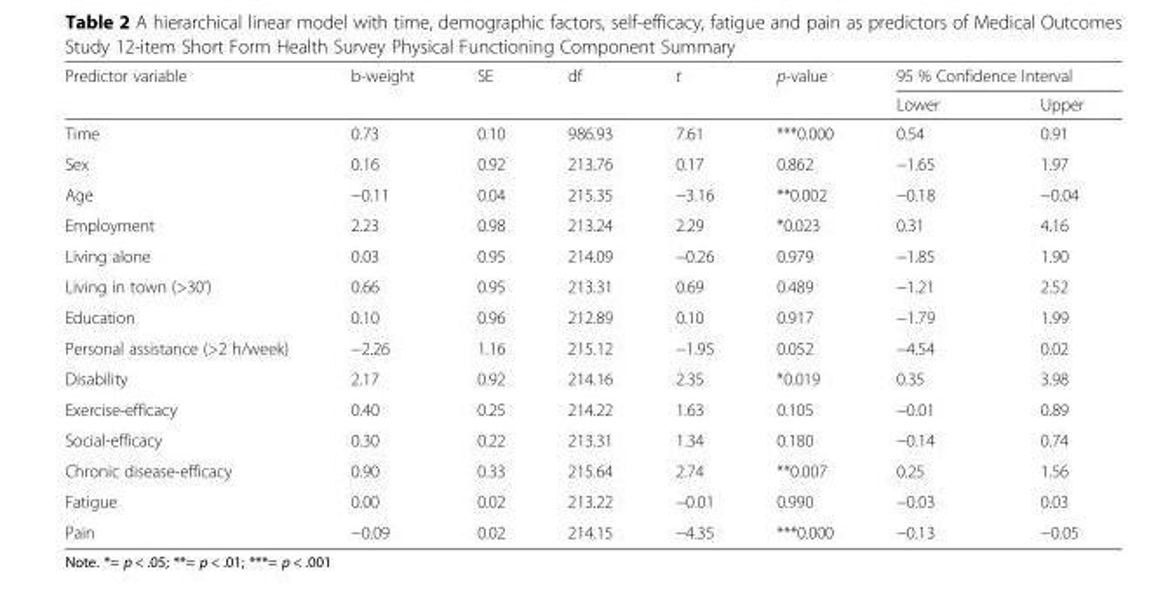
<table><thead><tr><td rowspan="2">Predictor variable</td><td rowspan="2">b-weight</td><td rowspan="2">SE</td><td rowspan="2">df</td><td rowspan="2">t</td><td rowspan="2">p-value</td><td colspan="2">95 % Confidence Interval</td></tr><tr><td>Lower</td><td>Upper</td></tr></thead><tbody><tr><td>Time</td><td>0.73</td><td>0.10</td><td>986.93</td><td>7.61</td><td>***0.000</td><td>0.54</td><td>0.91</td></tr><tr><td>Sex</td><td>0.16</td><td>0.92</td><td>213.76</td><td>0.17</td><td>0.862</td><td>−1.65</td><td>1.97</td></tr><tr><td>Age</td><td>−0.11</td><td>0.04</td><td>215.35</td><td>−3.16</td><td>**0.002</td><td>−0.18</td><td>−0.04</td></tr><tr><td>Employment</td><td>2.23</td><td>0.98</td><td>213.24</td><td>2.29</td><td>*0.023</td><td>0.31</td><td>4.16</td></tr><tr><td>Living alone</td><td>0.03</td><td>0.95</td><td>214.09</td><td>−0.26</td><td>0.979</td><td>−1.85</td><td>1.90</td></tr><tr><td>Living in town (&gt;30’)</td><td>0.66</td><td>0.95</td><td>213.31</td><td>0.69</td><td>0.489</td><td>−1.21</td><td>2.52</td></tr><tr><td>Education</td><td>0.10</td><td>0.96</td><td>212.89</td><td>0.10</td><td>0.917</td><td>−1.79</td><td>1.99</td></tr><tr><td>Personal assistance (&gt;2 h/week)</td><td>−2.26</td><td>1.16</td><td>215.12</td><td>−1.95</td><td>0.052</td><td>−4.54</td><td>0.02</td></tr><tr><td>Disability</td><td>2.17</td><td>0.92</td><td>214.16</td><td>2.35</td><td>*0.019</td><td>0.35</td><td>3.98</td></tr><tr><td>Exercise-efficacy</td><td>0.40</td><td>0.25</td><td>214.22</td><td>1.63</td><td>0.105</td><td>−0.01</td><td>0.89</td></tr><tr><td>Social-efficacy</td><td>0.30</td><td>0.22</td><td>213.31</td><td>1.34</td><td>0.180</td><td>−0.14</td><td>0.74</td></tr><tr><td>Chronic disease-efficacy</td><td>0.90</td><td>0.33</td><td>215.64</td><td>2.74</td><td>**0.007</td><td>0.25</td><td>1.56</td></tr><tr><td>Fatigue</td><td>0.00</td><td>0.02</td><td>213.22</td><td>−0.01</td><td>0.990</td><td>−0.03</td><td>0.03</td></tr><tr><td>Pain</td><td>−0.09</td><td>0.02</td><td>214.15</td><td>−4.35</td><td>***0.000</td><td>−0.13</td><td>−0.05</td></tr></tbody></table>